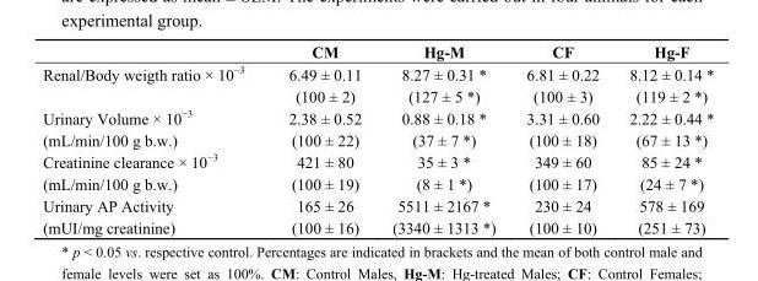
<table><thead><tr><td></td><td>CM</td><td>Hg-M</td><td>CF</td><td>Hg-F</td></tr></thead><tbody><tr><td>Renal/Body weigth ratio × 10<sup>−3</sup></td><td>6.49 ± 0.11 (100 ± 2)</td><td>8.27 ± 0.31 * (127 ± 5 *)</td><td>6.81 ± 0.22 (100 ± 3)</td><td>8.12 ± 0.14 * (119 ± 2 *)</td></tr><tr><td>Urinary Volume × 10<sup>−3</sup> (mL/min/100 g b.w.)</td><td>2.38 ± 0.52 (100 ± 22)</td><td>0.88 ± 0.18 * (37 ± 7 *)</td><td>3.31 ± 0.60 (100 ± 18)</td><td>2.22 ± 0.44 * (67 ± 13 *)</td></tr><tr><td>Creatinine clearance × 10<sup>−3</sup> (mL/min/100 g b.w.)</td><td>421 ± 80 (100 ± 19)</td><td>35 ± 3 * (8 ± 1 *)</td><td>349 ± 60 (100 ± 17)</td><td>85 ± 24 * (24 ± 7 *)</td></tr><tr><td>Urinary AP Activity (mUI/mg creatinine)</td><td>165 ± 26 (100 ± 16)</td><td>5511 ± 2167 * (3340 ± 1313 *)</td><td>230 ± 24 (100 ± 10)</td><td>578 ± 169 (251 ± 73)</td></tr></tbody></table>